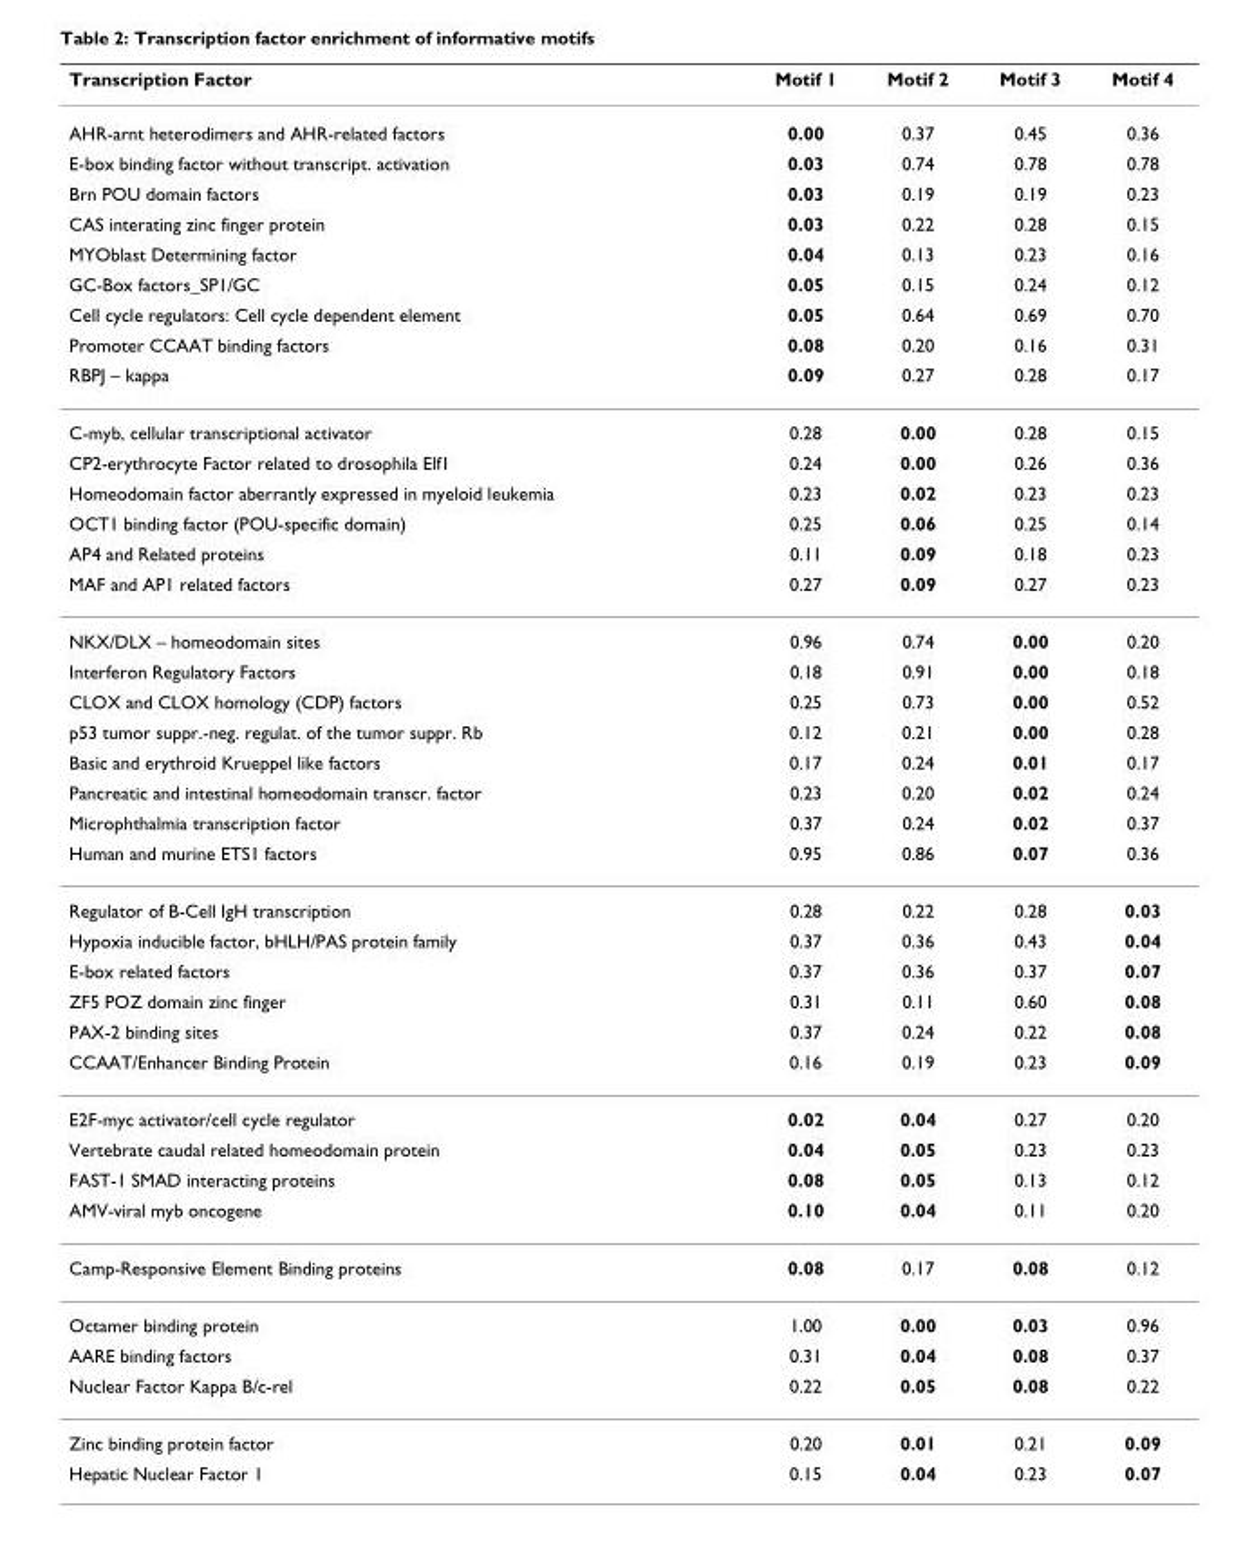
<table><thead><tr><td>Transcription Factor</td><td>Motif 1</td><td>Motif 2</td><td>Motif 3</td><td>Motif 4</td></tr></thead><tbody><tr><td>AHR-arnt heterodimers and AHR-related factors</td><td>0.00</td><td>0.37</td><td>0.45</td><td>0.36</td></tr><tr><td>E-box binding factor without transcript. activation</td><td>0.03</td><td>0.74</td><td>0.78</td><td>0.78</td></tr><tr><td>Brn POU domain factors</td><td>0.03</td><td>0.19</td><td>0.19</td><td>0.23</td></tr><tr><td>CAS interating zinc finger protein</td><td>0.03</td><td>0.22</td><td>0.28</td><td>0.15</td></tr><tr><td>MYOblast Determining factor</td><td>0.04</td><td>0.13</td><td>0.23</td><td>0.16</td></tr><tr><td>GC-Box factors_SP1/GC</td><td>0.05</td><td>0.15</td><td>0.24</td><td>0.12</td></tr><tr><td>Cell cycle regulators: Cell cycle dependent element</td><td>0.05</td><td>0.64</td><td>0.69</td><td>0.70</td></tr><tr><td>Promoter CCAAT binding factors</td><td>0.08</td><td>0.20</td><td>0.16</td><td>0.31</td></tr><tr><td>RBPJ – kappa</td><td>0.09</td><td>0.27</td><td>0.28</td><td>0.17</td></tr><tr><td>C-myb, cellular transcriptional activator</td><td>0.28</td><td>0.00</td><td>0.28</td><td>0.15</td></tr><tr><td>CP2-erythrocyte Factor related to drosophila Elf1</td><td>0.24</td><td>0.00</td><td>0.26</td><td>0.36</td></tr><tr><td>Homeodomain factor aberrantly expressed in myeloid leukemia</td><td>0.23</td><td>0.02</td><td>0.23</td><td>0.23</td></tr><tr><td>OCT1 binding factor (POU-specific domain)</td><td>0.25</td><td>0.06</td><td>0.25</td><td>0.14</td></tr><tr><td>AP4 and Related proteins</td><td>0.11</td><td>0.09</td><td>0.18</td><td>0.23</td></tr><tr><td>MAF and AP1 related factors</td><td>0.27</td><td>0.09</td><td>0.27</td><td>0.23</td></tr><tr><td>NKX/DLX – homeodomain sites</td><td>0.96</td><td>0.74</td><td>0.00</td><td>0.20</td></tr><tr><td>Interferon Regulatory Factors</td><td>0.18</td><td>0.91</td><td>0.00</td><td>0.18</td></tr><tr><td>CLOX and CLOX homology (CDP) factors</td><td>0.25</td><td>0.73</td><td>0.00</td><td>0.52</td></tr><tr><td>p53 tumor suppr.-neg. regulat. of the tumor suppr. Rb</td><td>0.12</td><td>0.21</td><td>0.00</td><td>0.28</td></tr><tr><td>Basic and erythroid Krueppel like factors</td><td>0.17</td><td>0.24</td><td>0.01</td><td>0.17</td></tr><tr><td>Pancreatic and intestinal homeodomain transcr. factor</td><td>0.23</td><td>0.20</td><td>0.02</td><td>0.24</td></tr><tr><td>Microphthalmia transcription factor</td><td>0.37</td><td>0.24</td><td>0.02</td><td>0.37</td></tr><tr><td>Human and murine ETS1 factors</td><td>0.95</td><td>0.86</td><td>0.07</td><td>0.36</td></tr><tr><td>Regulator of B-Cell IgH transcription</td><td>0.28</td><td>0.22</td><td>0.28</td><td>0.03</td></tr><tr><td>Hypoxia inducible factor, bHLH/PAS protein family</td><td>0.37</td><td>0.36</td><td>0.43</td><td>0.04</td></tr><tr><td>E-box related factors</td><td>0.37</td><td>0.36</td><td>0.37</td><td>0.07</td></tr><tr><td>ZF5 POZ domain zinc finger</td><td>0.31</td><td>0.11</td><td>0.60</td><td>0.08</td></tr><tr><td>PAX-2 binding sites</td><td>0.37</td><td>0.24</td><td>0.22</td><td>0.08</td></tr><tr><td>CCAAT/Enhancer Binding Protein</td><td>0.16</td><td>0.19</td><td>0.23</td><td>0.09</td></tr><tr><td>E2F-myc activator/cell cycle regulator</td><td>0.02</td><td>0.04</td><td>0.27</td><td>0.20</td></tr><tr><td>Vertebrate caudal related homeodomain protein</td><td>0.04</td><td>0.05</td><td>0.23</td><td>0.23</td></tr><tr><td>FAST-1 SMAD interacting proteins</td><td>0.08</td><td>0.05</td><td>0.13</td><td>0.12</td></tr><tr><td>AMV-viral myb oncogene</td><td>0.10</td><td>0.04</td><td>0.11</td><td>0.20</td></tr><tr><td>Camp-Responsive Element Binding proteins</td><td>0.08</td><td>0.17</td><td>0.08</td><td>0.12</td></tr><tr><td>Octamer binding protein</td><td>1.00</td><td>0.00</td><td>0.03</td><td>0.96</td></tr><tr><td>AARE binding factors</td><td>0.31</td><td>0.04</td><td>0.08</td><td>0.37</td></tr><tr><td>Nuclear Factor Kappa B/c-rel</td><td>0.22</td><td>0.05</td><td>0.08</td><td>0.22</td></tr><tr><td>Zinc binding protein factor</td><td>0.20</td><td>0.01</td><td>0.21</td><td>0.09</td></tr><tr><td>Hepatic Nuclear Factor 1</td><td>0.15</td><td>0.04</td><td>0.23</td><td>0.07</td></tr></tbody></table>